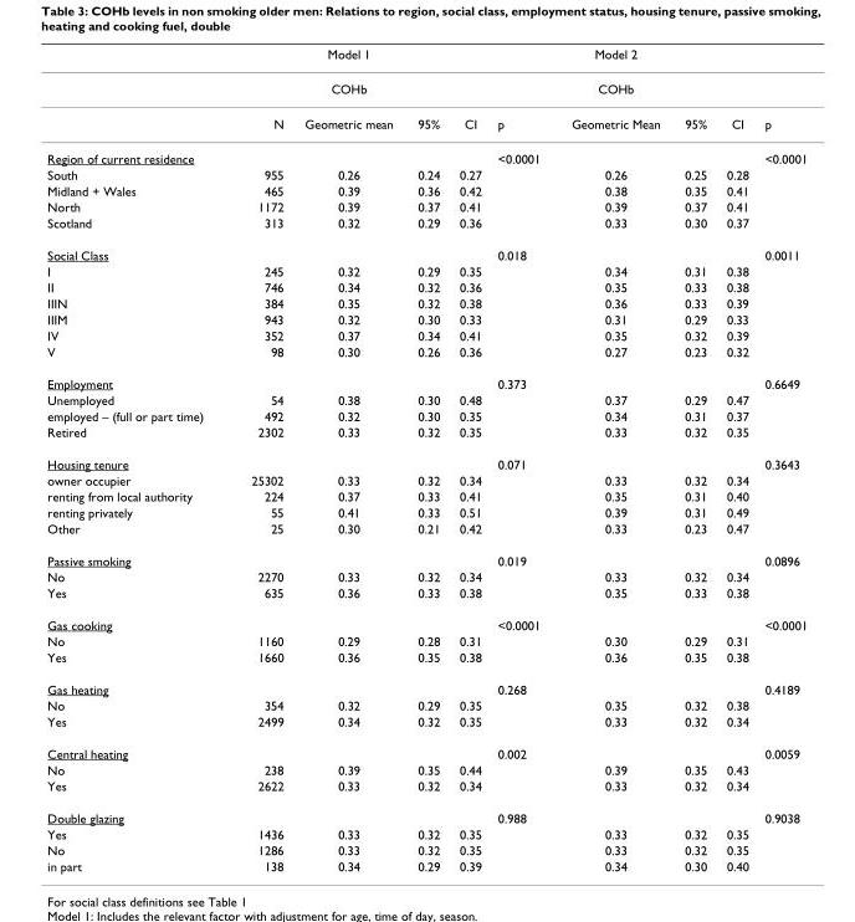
<table><thead><tr><td></td><td></td><td>Model 1</td><td></td><td></td><td></td><td>Model 2</td><td></td><td></td><td></td></tr></thead><tbody><tr><td></td><td></td><td>COHb</td><td></td><td></td><td></td><td>COHb</td><td></td><td></td><td></td></tr><tr><td></td><td>N</td><td>Geometric mean</td><td>95%</td><td>CI</td><td>p</td><td>Geometric Mean</td><td>95%</td><td>CI</td><td>p</td></tr><tr><td>Region of current residence</td><td></td><td></td><td></td><td></td><td>&lt;0.0001</td><td></td><td></td><td></td><td>&lt;0.0001</td></tr><tr><td>South</td><td>955</td><td>0.26</td><td>0.24</td><td>0.27</td><td></td><td>0.26</td><td>0.25</td><td>0.28</td><td></td></tr><tr><td>Midland + Wales</td><td>465</td><td>0.39</td><td>0.36</td><td>0.42</td><td></td><td>0.38</td><td>0.35</td><td>0.41</td><td></td></tr><tr><td>North</td><td>1172</td><td>0.39</td><td>0.37</td><td>0.41</td><td></td><td>0.39</td><td>0.37</td><td>0.41</td><td></td></tr><tr><td>Scotland</td><td>313</td><td>0.32</td><td>0.29</td><td>0.36</td><td></td><td>0.33</td><td>0.30</td><td>0.37</td><td></td></tr><tr><td>Social Class</td><td></td><td></td><td></td><td></td><td>0.018</td><td></td><td></td><td></td><td>0.0011</td></tr><tr><td>I</td><td>245</td><td>0.32</td><td>0.29</td><td>0.35</td><td></td><td>0.34</td><td>0.31</td><td>0.38</td><td></td></tr><tr><td>II</td><td>746</td><td>0.34</td><td>0.32</td><td>0.36</td><td></td><td>0.35</td><td>0.33</td><td>0.38</td><td></td></tr><tr><td>IIIN</td><td>384</td><td>0.35</td><td>0.32</td><td>0.38</td><td></td><td>0.36</td><td>0.33</td><td>0.39</td><td></td></tr><tr><td>IIIM</td><td>943</td><td>0.32</td><td>0.30</td><td>0.33</td><td></td><td>0.31</td><td>0.29</td><td>0.33</td><td></td></tr><tr><td>IV</td><td>352</td><td>0.37</td><td>0.34</td><td>0.41</td><td></td><td>0.35</td><td>0.32</td><td>0.39</td><td></td></tr><tr><td>V</td><td>98</td><td>0.30</td><td>0.26</td><td>0.36</td><td></td><td>0.27</td><td>0.23</td><td>0.32</td><td></td></tr><tr><td>Employment</td><td></td><td></td><td></td><td></td><td>0.373</td><td></td><td></td><td></td><td>0.6649</td></tr><tr><td>Unemployed</td><td>54</td><td>0.38</td><td>0.30</td><td>0.48</td><td></td><td>0.37</td><td>0.29</td><td>0.47</td><td></td></tr><tr><td>employed – (full or part time)</td><td>492</td><td>0.32</td><td>0.30</td><td>0.35</td><td></td><td>0.34</td><td>0.31</td><td>0.37</td><td></td></tr><tr><td>Retired</td><td>2302</td><td>0.33</td><td>0.32</td><td>0.35</td><td></td><td>0.33</td><td>0.32</td><td>0.35</td><td></td></tr><tr><td>Housing tenure</td><td></td><td></td><td></td><td></td><td>0.071</td><td></td><td></td><td></td><td>0.3643</td></tr><tr><td>owner occupier</td><td>25302</td><td>0.33</td><td>0.32</td><td>0.34</td><td></td><td>0.33</td><td>0.32</td><td>0.34</td><td></td></tr><tr><td>renting from local authority</td><td>224</td><td>0.37</td><td>0.33</td><td>0.41</td><td></td><td>0.35</td><td>0.31</td><td>0.40</td><td></td></tr><tr><td>renting privately</td><td>55</td><td>0.41</td><td>0.33</td><td>0.51</td><td></td><td>0.39</td><td>0.31</td><td>0.49</td><td></td></tr><tr><td>Other</td><td>25</td><td>0.30</td><td>0.21</td><td>0.42</td><td></td><td>0.33</td><td>0.23</td><td>0.47</td><td></td></tr><tr><td>Passive smoking</td><td></td><td></td><td></td><td></td><td>0.019</td><td></td><td></td><td></td><td>0.0896</td></tr><tr><td>No</td><td>2270</td><td>0.33</td><td>0.32</td><td>0.34</td><td></td><td>0.33</td><td>0.32</td><td>0.34</td><td></td></tr><tr><td>Yes</td><td>635</td><td>0.36</td><td>0.33</td><td>0.38</td><td></td><td>0.35</td><td>0.33</td><td>0.38</td><td></td></tr><tr><td>Gas cooking</td><td></td><td></td><td></td><td></td><td>&lt;0.0001</td><td></td><td></td><td></td><td>&lt;0.0001</td></tr><tr><td>No</td><td>1160</td><td>0.29</td><td>0.28</td><td>0.31</td><td></td><td>0.30</td><td>0.29</td><td>0.31</td><td></td></tr><tr><td>Yes</td><td>1660</td><td>0.36</td><td>0.35</td><td>0.38</td><td></td><td>0.36</td><td>0.35</td><td>0.38</td><td></td></tr><tr><td>Gas heating</td><td></td><td></td><td></td><td></td><td>0.268</td><td></td><td></td><td></td><td>0.4189</td></tr><tr><td>No</td><td>354</td><td>0.32</td><td>0.29</td><td>0.35</td><td></td><td>0.35</td><td>0.32</td><td>0.38</td><td></td></tr><tr><td>Yes</td><td>2499</td><td>0.34</td><td>0.32</td><td>0.35</td><td></td><td>0.33</td><td>0.32</td><td>0.34</td><td></td></tr><tr><td>Central heating</td><td></td><td></td><td></td><td></td><td>0.002</td><td></td><td></td><td></td><td>0.0059</td></tr><tr><td>No</td><td>238</td><td>0.39</td><td>0.35</td><td>0.44</td><td></td><td>0.39</td><td>0.35</td><td>0.43</td><td></td></tr><tr><td>Yes</td><td>2622</td><td>0.33</td><td>0.32</td><td>0.34</td><td></td><td>0.33</td><td>0.32</td><td>0.34</td><td></td></tr><tr><td>Double glazing</td><td></td><td></td><td></td><td></td><td>0.988</td><td></td><td></td><td></td><td>0.9038</td></tr><tr><td>Yes</td><td>1436</td><td>0.33</td><td>0.32</td><td>0.35</td><td></td><td>0.33</td><td>0.32</td><td>0.35</td><td></td></tr><tr><td>No</td><td>1286</td><td>0.33</td><td>0.32</td><td>0.35</td><td></td><td>0.33</td><td>0.32</td><td>0.35</td><td></td></tr><tr><td>in part</td><td>138</td><td>0.34</td><td>0.29</td><td>0.39</td><td></td><td>0.34</td><td>0.30</td><td>0.40</td><td></td></tr></tbody></table>